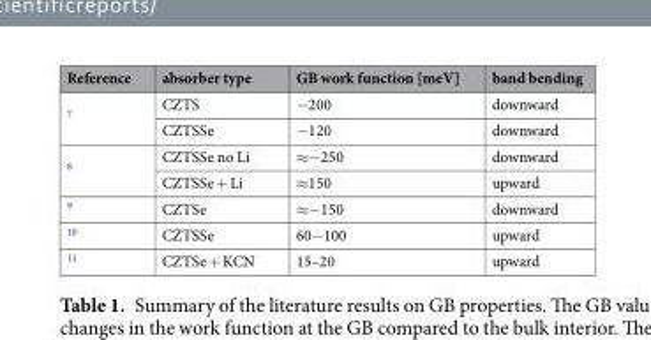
<table><thead><tr><td>Reference</td><td>absorber type</td><td>GB work function [meV]</td><td>band bending</td></tr></thead><tbody><tr><td rowspan="2"><sup>7</sup></td><td>CZTS</td><td>−200</td><td>downward</td></tr><tr><td>CZTSSe</td><td>−120</td><td>downward</td></tr><tr><td rowspan="2"><sup>8</sup></td><td>CZTSSe no Li</td><td>≈−250</td><td>downward</td></tr><tr><td>CZTSSe + Li</td><td>≈150</td><td>upward</td></tr><tr><td><sup>9</sup></td><td>CZTSe</td><td>≈−150</td><td>downward</td></tr><tr><td><sup>10</sup></td><td>CZTSSe</td><td>60−100</td><td>upward</td></tr><tr><td><sup>11</sup></td><td>CZTSe + KCN</td><td>15–20</td><td>upward</td></tr></tbody></table>